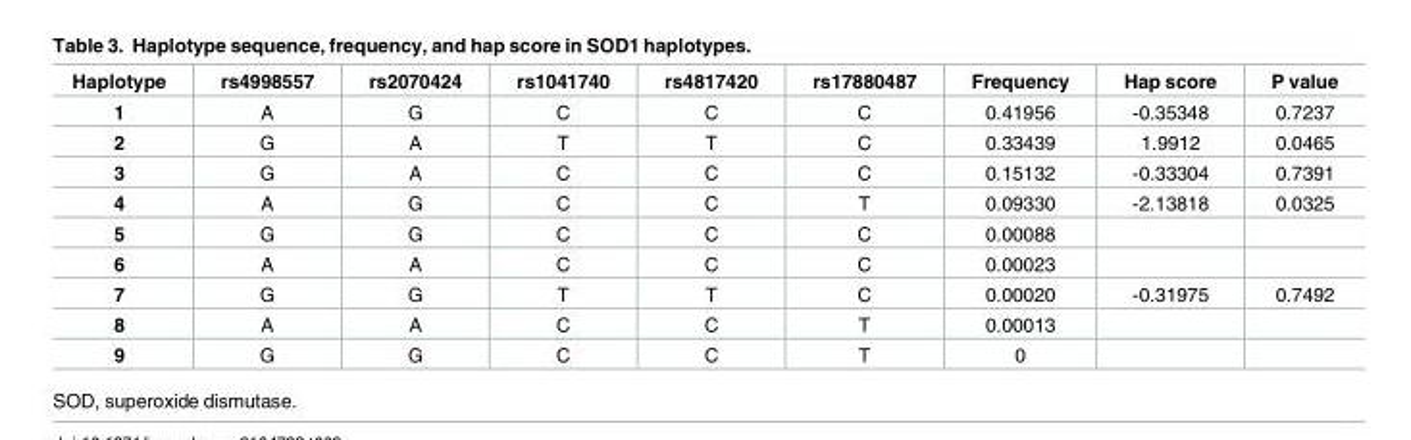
<table><thead><tr><td>Haplotype</td><td>rs4998557</td><td>rs2070424</td><td>rs1041740</td><td>rs4817420</td><td>rs17880487</td><td>Frequency</td><td>Hap score</td><td>P value</td></tr></thead><tbody><tr><td>1</td><td>A</td><td>G</td><td>C</td><td>C</td><td>C</td><td>0.41956</td><td>-0.35348</td><td>0.7237</td></tr><tr><td>2</td><td>G</td><td>A</td><td>T</td><td>T</td><td>C</td><td>0.33439</td><td>1.9912</td><td>0.0465</td></tr><tr><td>3</td><td>G</td><td>A</td><td>C</td><td>C</td><td>C</td><td>0.15132</td><td>-0.33304</td><td>0.7391</td></tr><tr><td>4</td><td>A</td><td>G</td><td>C</td><td>C</td><td>T</td><td>0.09330</td><td>-2.13818</td><td>0.0325</td></tr><tr><td>5</td><td>G</td><td>G</td><td>C</td><td>C</td><td>C</td><td>0.00088</td><td></td><td></td></tr><tr><td>6</td><td>A</td><td>A</td><td>C</td><td>C</td><td>C</td><td>0.00023</td><td></td><td></td></tr><tr><td>7</td><td>G</td><td>G</td><td>T</td><td>T</td><td>C</td><td>0.00020</td><td>-0.31975</td><td>0.7492</td></tr><tr><td>8</td><td>A</td><td>A</td><td>C</td><td>C</td><td>T</td><td>0.00013</td><td></td><td></td></tr><tr><td>9</td><td>G</td><td>G</td><td>C</td><td>C</td><td>T</td><td>0</td><td></td><td></td></tr></tbody></table>